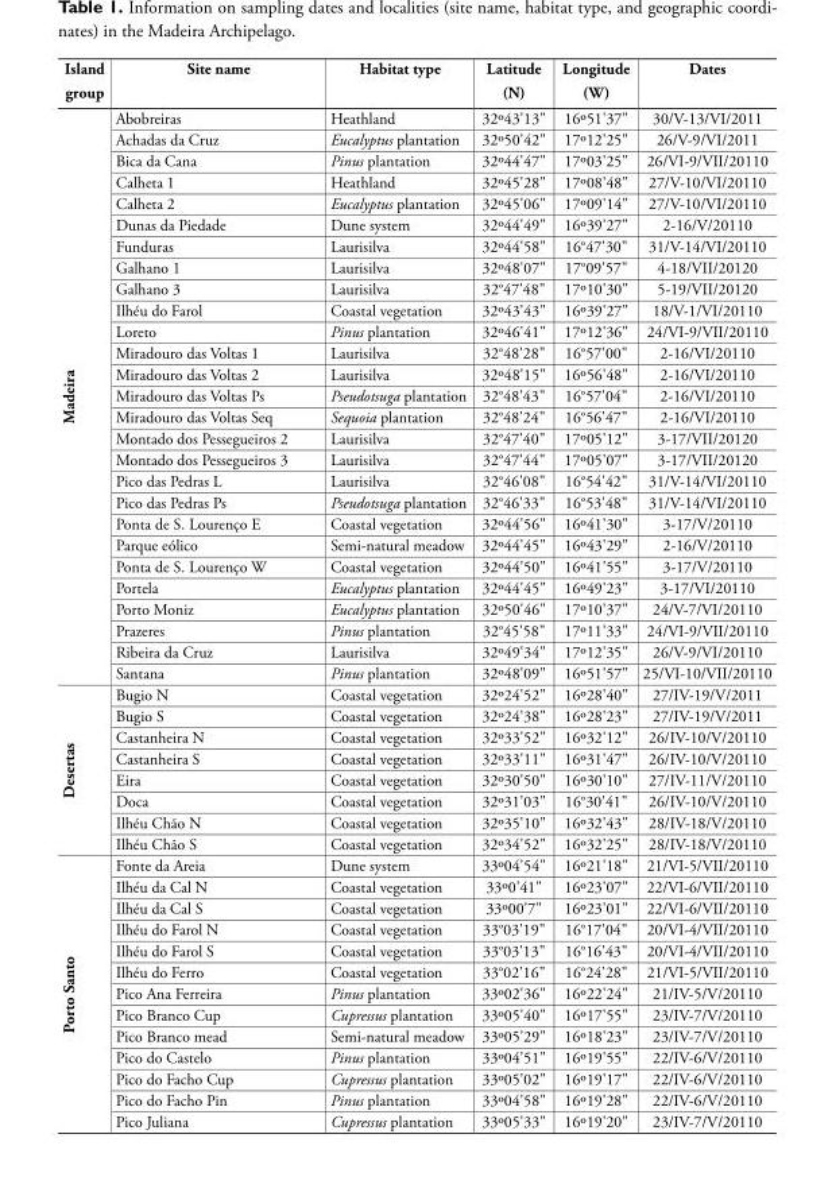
<table><thead><tr><td>Island group</td><td>Site name</td><td>Habitat type</td><td>Latitude (N)</td><td>Longitude (W)</td><td>Dates</td></tr></thead><tbody><tr><td rowspan="27">Madeira</td><td>Abobreiras</td><td>Heathland</td><td>32º43&#x27;13&quot;</td><td>16º51&#x27;37&quot;</td><td>30/V-13/VI/2011</td></tr><tr><td>Achadas da Cruz</td><td>Eucalyptus plantation</td><td>32º50&#x27;42&quot;</td><td>17º12&#x27;25&quot;</td><td>26/V-9/VI/2011</td></tr><tr><td>Bica da Cana</td><td>Pinus plantation</td><td>32º44&#x27;47&quot;</td><td>17º03&#x27;25&quot;</td><td>26/VI-9/VII/20110</td></tr><tr><td>Calheta 1</td><td>Heathland</td><td>32º45&#x27;28&quot;</td><td>17º08&#x27;48&quot;</td><td>27/V-10/VI/20110</td></tr><tr><td>Calheta 2</td><td>Eucalyptus plantation</td><td>32º45&#x27;06&quot;</td><td>17º09&#x27;14&quot;</td><td>27/V-10/VI/20110</td></tr><tr><td>Dunas da Piedade</td><td>Dune system</td><td>32º44&#x27;49&quot;</td><td>16º39&#x27;27&quot;</td><td>2-16/V/20110</td></tr><tr><td>Funduras</td><td>Laurisilva</td><td>32º44&#x27;58&quot;</td><td>16°47&#x27;30&quot;</td><td>31/V-14/VI/20110</td></tr><tr><td>Galhano 1</td><td>Laurisilva</td><td>32º48&#x27;07&quot;</td><td>17°09&#x27;57&quot;</td><td>4-18/VII/20120</td></tr><tr><td>Galhano 3</td><td>Laurisilva</td><td>32°47&#x27;48&quot;</td><td>17º10&#x27;30&quot;</td><td>5-19/VII/20120</td></tr><tr><td>Ilhéu do Farol</td><td>Coastal vegetation</td><td>32º43&#x27;43&quot;</td><td>16º39&#x27;27&quot;</td><td>18/V-1/VI/20110</td></tr><tr><td>Loreto</td><td>Pinus plantation</td><td>32º46&#x27;41&quot;</td><td>17º12&#x27;36&quot;</td><td>24/VI-9/VII/20110</td></tr><tr><td>Miradouro das Voltas 1</td><td>Laurisilva</td><td>32°48&#x27;28&quot;</td><td>16°57&#x27;00&quot;</td><td>2-16/VI/20110</td></tr><tr><td>Miradouro das Voltas 2</td><td>Laurisilva</td><td>32º48&#x27;15&quot;</td><td>16º56&#x27;48&quot;</td><td>2-16/VI/20110</td></tr><tr><td>Miradouro das Voltas Ps</td><td>Pseudotsuga plantation</td><td>32°48&#x27;43&quot;</td><td>16°57&#x27;04&quot;</td><td>2-16/VI/20110</td></tr><tr><td>Miradouro das Voltas Seq</td><td>Sequoia plantation</td><td>32°48&#x27;24&quot;</td><td>16°56&#x27;47&quot;</td><td>2-16/VI/20110</td></tr><tr><td>Montado dos Pessegueiros 2</td><td>Laurisilva</td><td>32°47&#x27;40&quot;</td><td>17º05&#x27;12&quot;</td><td>3-17/VII/20120</td></tr><tr><td>Montado dos Pessegueiros 3</td><td>Laurisilva</td><td>32°47&#x27;44&quot;</td><td>17º05&#x27;07&quot;</td><td>3-17/VII/20120</td></tr><tr><td>Pico das Pedras L</td><td>Laurisilva</td><td>32°46&#x27;08&quot;</td><td>16°54&#x27;42&quot;</td><td>31/V-14/VI/20110</td></tr><tr><td>Pico das Pedras Ps</td><td>Pseudotsuga plantation</td><td>32°46&#x27;33&quot;</td><td>16°53&#x27;48&quot;</td><td>31/V-14/VI/20110</td></tr><tr><td>Ponta de S. Lourenço E</td><td>Coastal vegetation</td><td>32º44&#x27;56&quot;</td><td>16º41&#x27;30&quot;</td><td>3-17/V/20110</td></tr><tr><td>Parque eólico</td><td>Semi-natural meadow</td><td>32º44&#x27;45&quot;</td><td>16º43&#x27;29&quot;</td><td>2-16/V/20110</td></tr><tr><td>Ponta de S. Lourenço W</td><td>Coastal vegetation</td><td>32º44&#x27;50&quot;</td><td>16º41&#x27;55&quot;</td><td>3-17/V/20110</td></tr><tr><td>Portela</td><td>Eucalyptus plantation</td><td>32º44&#x27;45&quot;</td><td>16º49&#x27;23&quot;</td><td>3-17/VI/20110</td></tr><tr><td>Porto Moniz</td><td>Eucalyptus plantation</td><td>32º50&#x27;46&quot;</td><td>17º10&#x27;37&quot;</td><td>24/V-7/VI/20110</td></tr><tr><td>Prazeres</td><td>Pinus plantation</td><td>32°45&#x27;58&quot;</td><td>17º11&#x27;33&quot;</td><td>24/VI-9/VII/20110</td></tr><tr><td>Ribeira da Cruz</td><td>Laurisilva</td><td>32º49&#x27;34&quot;</td><td>17º12&#x27;35&quot;</td><td>26/V-9/VI/20110</td></tr><tr><td>Santana</td><td>Pinus plantation</td><td>32º48&#x27;09&quot;</td><td>16º51&#x27;57&quot;</td><td>25/VI-10/VII/20110</td></tr><tr><td rowspan="8">Desertas</td><td>Bugio N</td><td>Coastal vegetation</td><td>32º24&#x27;52&quot;</td><td>16º28&#x27;40&quot;</td><td>27/IV-19/V/2011</td></tr><tr><td>Bugio S</td><td>Coastal vegetation</td><td>32º24&#x27;38&quot;</td><td>16º28&#x27;23&quot;</td><td>27/IV-19/V/2011</td></tr><tr><td>Castanheira N</td><td>Coastal vegetation</td><td>32º33&#x27;52&quot;</td><td>16º32&#x27;12&quot;</td><td>26/IV-10/V/20110</td></tr><tr><td>Castanheira S</td><td>Coastal vegetation</td><td>32º33&#x27;11&quot;</td><td>16º31&#x27;47&quot;</td><td>26/IV-10/V/20110</td></tr><tr><td>Eira</td><td>Coastal vegetation</td><td>32º30&#x27;50&quot;</td><td>16º30&#x27;10&quot;</td><td>27/IV-11/V/20110</td></tr><tr><td>Doca</td><td>Coastal vegetation</td><td>32º31&#x27;03&quot;</td><td>16°30&#x27;41&quot;</td><td>26/IV-10/V/20110</td></tr><tr><td>Ilhéu Chão N</td><td>Coastal vegetation</td><td>32º35&#x27;10&quot;</td><td>16º32&#x27;43&quot;</td><td>28/IV-18/V/20110</td></tr><tr><td>Ilhéu Chão S</td><td>Coastal vegetation</td><td>32º34&#x27;52&quot;</td><td>16º32&#x27;25&quot;</td><td>28/IV-18/V/20110</td></tr><tr><td rowspan="13">Porto Santo</td><td>Fonte da Areia</td><td>Dune system</td><td>33º04&#x27;54&quot;</td><td>16º21&#x27;18&quot;</td><td>21/VI-5/VII/20110</td></tr><tr><td>Ilhéu da Cal N</td><td>Coastal vegetation</td><td>33º0&#x27;41&quot;</td><td>16º23&#x27;07&quot;</td><td>22/VI-6/VII/20110</td></tr><tr><td>Ilhéu da Cal S</td><td>Coastal vegetation</td><td>33º00&#x27;7&quot;</td><td>16º23&#x27;01&quot;</td><td>22/VI-6/VII/20110</td></tr><tr><td>Ilhéu do Farol N</td><td>Coastal vegetation</td><td>33°03&#x27;19&quot;</td><td>16°17&#x27;04&quot;</td><td>20/VI-4/VII/20110</td></tr><tr><td>Ilhéu do Farol S</td><td>Coastal vegetation</td><td>33°03&#x27;13&quot;</td><td>16°16&#x27;43&quot;</td><td>20/VI-4/VII/20110</td></tr><tr><td>Ilhéu do Ferro</td><td>Coastal vegetation</td><td>33°02&#x27;16&quot;</td><td>16°24&#x27;28&quot;</td><td>21/VI-5/VII/20110</td></tr><tr><td>Pico Ana Ferreira</td><td>Pinus plantation</td><td>33º02&#x27;36&quot;</td><td>16º22&#x27;24&quot;</td><td>21/IV-5/V/20110</td></tr><tr><td>Pico Branco Cup</td><td>Cupressus plantation</td><td>33º05&#x27;40&quot;</td><td>16º17&#x27;55&quot;</td><td>23/IV-7/V/20110</td></tr><tr><td>Pico Branco mead</td><td>Semi-natural meadow</td><td>33º05&#x27;29&quot;</td><td>16º18&#x27;23&quot;</td><td>23/IV-7/V/20110</td></tr><tr><td>Pico do Castelo</td><td>Pinus plantation</td><td>33º04&#x27;51&quot;</td><td>16º19&#x27;55&quot;</td><td>22/IV-6/V/20110</td></tr><tr><td>Pico do Facho Cup</td><td>Cupressus plantation</td><td>33º05&#x27;02&quot;</td><td>16º19&#x27;17&quot;</td><td>22/IV-6/V/20110</td></tr><tr><td>Pico do Facho Pin</td><td>Pinus plantation</td><td>33º04&#x27;58&quot;</td><td>16º19&#x27;28&quot;</td><td>22/IV-6/V/20110</td></tr><tr><td>Pico Juliana</td><td>Cupressus plantation</td><td>33º05&#x27;33&quot;</td><td>16º19&#x27;20&quot;</td><td>23/IV-7/V/20110</td></tr></tbody></table>